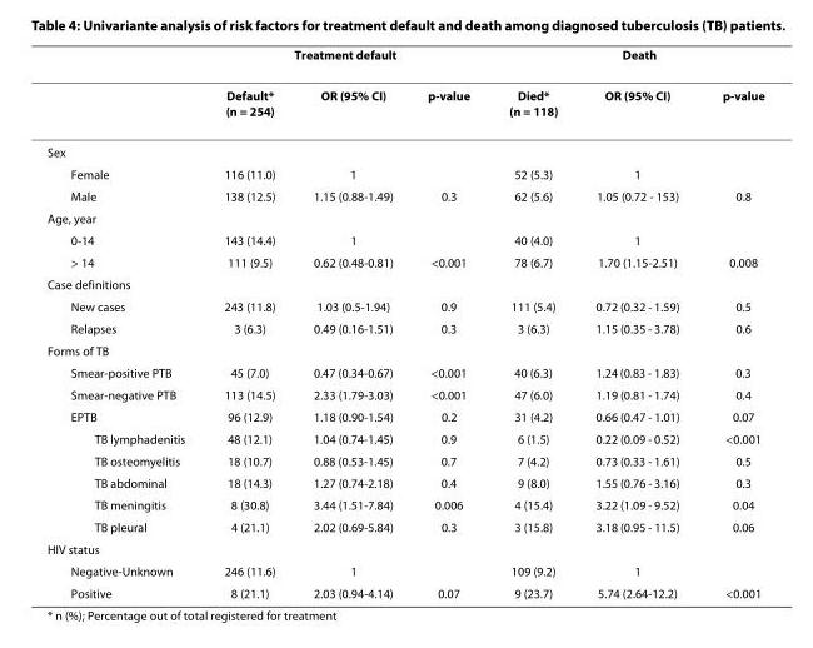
<table><thead><tr><td rowspan="2"></td><td colspan="3">Treatment default</td><td colspan="3">Death</td></tr><tr><td>Default* (n = 254)</td><td>OR (95% CI)</td><td>p-value</td><td>Died* (n = 118)</td><td>OR (95% CI)</td><td>p-value</td></tr></thead><tbody><tr><td colspan="7">Sex</td></tr><tr><td>Female</td><td>116 (11.0)</td><td>1</td><td></td><td>52 (5.3)</td><td>1</td><td></td></tr><tr><td>Male</td><td>138 (12.5)</td><td>1.15 (0.88-1.49)</td><td>0.3</td><td>62 (5.6)</td><td>1.05 (0.72 - 153)</td><td>0.8</td></tr><tr><td colspan="7">Age, year</td></tr><tr><td>0-14</td><td>143 (14.4)</td><td>1</td><td></td><td>40 (4.0)</td><td>1</td><td></td></tr><tr><td>&gt; 14</td><td>111 (9.5)</td><td>0.62 (0.48-0.81)</td><td>&lt;0.001</td><td>78 (6.7)</td><td>1.70 (1.15-2.51)</td><td>0.008</td></tr><tr><td colspan="7">Case definitions</td></tr><tr><td>New cases</td><td>243 (11.8)</td><td>1.03 (0.5-1.94)</td><td>0.9</td><td>111 (5.4)</td><td>0.72 (0.32 - 1.59)</td><td>0.5</td></tr><tr><td>Relapses</td><td>3 (6.3)</td><td>0.49 (0.16-1.51)</td><td>0.3</td><td>3 (6.3)</td><td>1.15 (0.35 - 3.78)</td><td>0.6</td></tr><tr><td colspan="7">Forms of TB</td></tr><tr><td>Smear-positive PTB</td><td>45 (7.0)</td><td>0.47 (0.34-0.67)</td><td>&lt;0.001</td><td>40 (6.3)</td><td>1.24 (0.83 - 1.83)</td><td>0.3</td></tr><tr><td>Smear-negative PTB</td><td>113 (14.5)</td><td>2.33 (1.79-3.03)</td><td>&lt;0.001</td><td>47 (6.0)</td><td>1.19 (0.81 - 1.74)</td><td>0.4</td></tr><tr><td>EPTB</td><td>96 (12.9)</td><td>1.18 (0.90-1.54)</td><td>0.2</td><td>31 (4.2)</td><td>0.66 (0.47 - 1.01)</td><td>0.07</td></tr><tr><td>TB lymphadenitis</td><td>48 (12.1)</td><td>1.04 (0.74-1.45)</td><td>0.9</td><td>6 (1.5)</td><td>0.22 (0.09 - 0.52)</td><td>&lt;0.001</td></tr><tr><td>TB osteomyelitis</td><td>18 (10.7)</td><td>0.88 (0.53-1.45)</td><td>0.7</td><td>7 (4.2)</td><td>0.73 (0.33 - 1.61)</td><td>0.5</td></tr><tr><td>TB abdominal</td><td>18 (14.3)</td><td>1.27 (0.74-2.18)</td><td>0.4</td><td>9 (8.0)</td><td>1.55 (0.76 - 3.16)</td><td>0.3</td></tr><tr><td>TB meningitis</td><td>8 (30.8)</td><td>3.44 (1.51-7.84)</td><td>0.006</td><td>4 (15.4)</td><td>3.22 (1.09 - 9.52)</td><td>0.04</td></tr><tr><td>TB pleural</td><td>4 (21.1)</td><td>2.02 (0.69-5.84)</td><td>0.3</td><td>3 (15.8)</td><td>3.18 (0.95 - 11.5)</td><td>0.06</td></tr><tr><td colspan="7">HIV status</td></tr><tr><td>Negative-Unknown</td><td>246 (11.6)</td><td>1</td><td></td><td>109 (9.2)</td><td>1</td><td></td></tr><tr><td>Positive</td><td>8 (21.1)</td><td>2.03 (0.94-4.14)</td><td>0.07</td><td>9 (23.7)</td><td>5.74 (2.64-12.2)</td><td>&lt;0.001</td></tr></tbody></table>